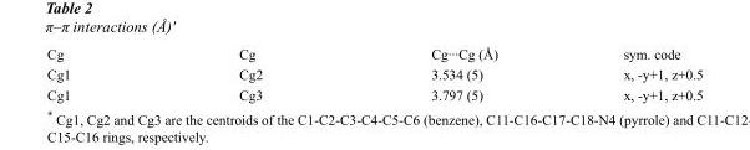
<table><tbody><tr><td>Cg</td><td>Cg</td><td>Cg···Cg (Å)</td><td>sym. code</td></tr><tr><td>Cg1</td><td>Cg2</td><td>3.534 (5)</td><td>x, -y+1, z+0.5</td></tr><tr><td>Cg1</td><td>Cg3</td><td>3.797 (5)</td><td>x, -y+1, z+0.5</td></tr></tbody></table>